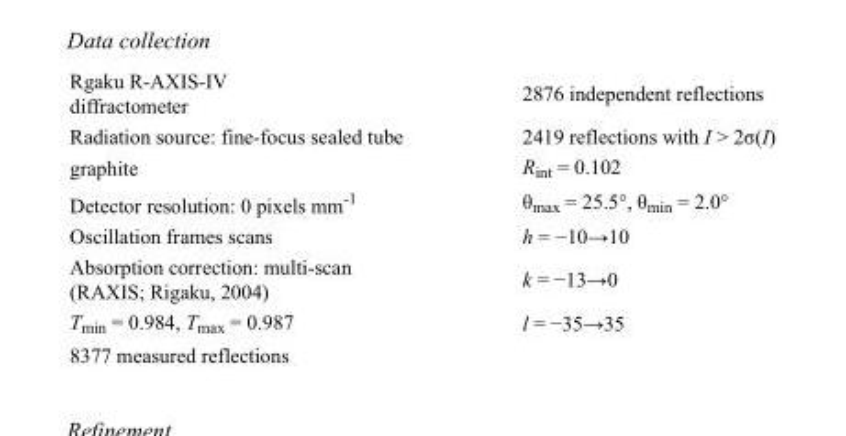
<table><tbody><tr><td>Rgaku R-AXIS-IV diffractometer</td><td>2876 independent reflections</td></tr><tr><td>Radiation source: fine-focus sealed tube</td><td>2419 reflections with I &gt; 2σ(I)</td></tr><tr><td>graphite</td><td>R<sub>int</sub> = 0.102</td></tr><tr><td>Detector resolution: 0 pixels mm<sup>-1</sup></td><td>θ<sub>max</sub> = 25.5°, θ<sub>min</sub> = 2.0°</td></tr><tr><td>Oscillation frames scans</td><td>h = −10→10</td></tr><tr><td>Absorption correction: multi-scan (RAXIS; Rigaku, 2004)</td><td>k = −13→0</td></tr><tr><td>T<sub>min</sub> = 0.984, T<sub>max</sub> = 0.987</td><td>l = −35→35</td></tr><tr><td>8377 measured reflections</td><td></td></tr></tbody></table>